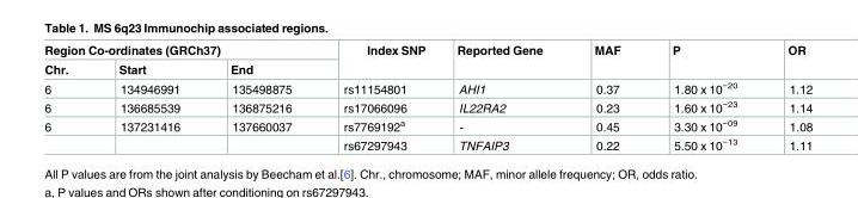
<table><thead><tr><td colspan="3">Region Co-ordinates (GRCh37)</td><td rowspan="2">Index SNP</td><td rowspan="2">Reported Gene</td><td rowspan="2">MAF</td><td rowspan="2">P</td><td rowspan="2">OR</td></tr><tr><td>Chr.</td><td>Start</td><td>End</td></tr></thead><tbody><tr><td>6</td><td>134946991</td><td>135498875</td><td>rs11154801</td><td>AHI1</td><td>0.37</td><td>1.80 x 10<sup>−20</sup></td><td>1.12</td></tr><tr><td>6</td><td>136685539</td><td>136875216</td><td>rs17066096</td><td>IL22RA2</td><td>0.23</td><td>1.60 x 10<sup>−23</sup></td><td>1.14</td></tr><tr><td rowspan="2">6</td><td>137231416</td><td>137660037</td><td>rs7769192<sup>a</sup></td><td>-</td><td>0.45</td><td>3.30 x 10<sup>−09</sup></td><td>1.08</td></tr><tr><td></td><td></td><td>rs67297943</td><td>TNFAIP3</td><td>0.22</td><td>5.50 x 10<sup>−13</sup></td><td>1.11</td></tr></tbody></table>